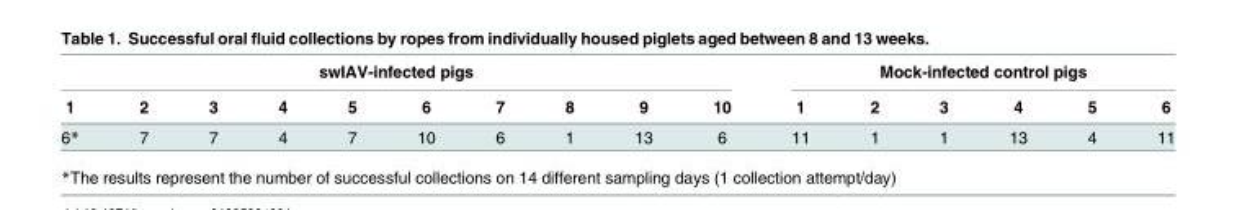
<table><thead><tr><td colspan="10">swIAV-infected pigs</td><td colspan="6">Mock-infected control pigs</td></tr><tr><td>1</td><td>2</td><td>3</td><td>4</td><td>5</td><td>6</td><td>7</td><td>8</td><td>9</td><td>10</td><td>1</td><td>2</td><td>3</td><td>4</td><td>5</td><td>6</td></tr></thead><tbody><tr><td>6*</td><td>7</td><td>7</td><td>4</td><td>7</td><td>10</td><td>6</td><td>1</td><td>13</td><td>6</td><td>11</td><td>1</td><td>1</td><td>13</td><td>4</td><td>11</td></tr></tbody></table>